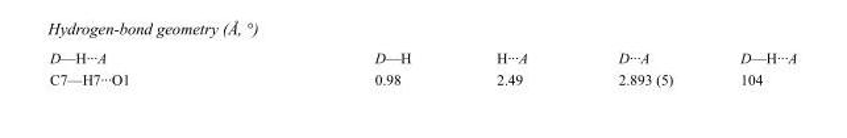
<table><tbody><tr><td>D—H···A</td><td>D—H</td><td>H···A</td><td>D···A</td><td>D—H···A</td></tr><tr><td>C7—H7···O1</td><td>0.98</td><td>2.49</td><td>2.893 (5)</td><td>104</td></tr></tbody></table>